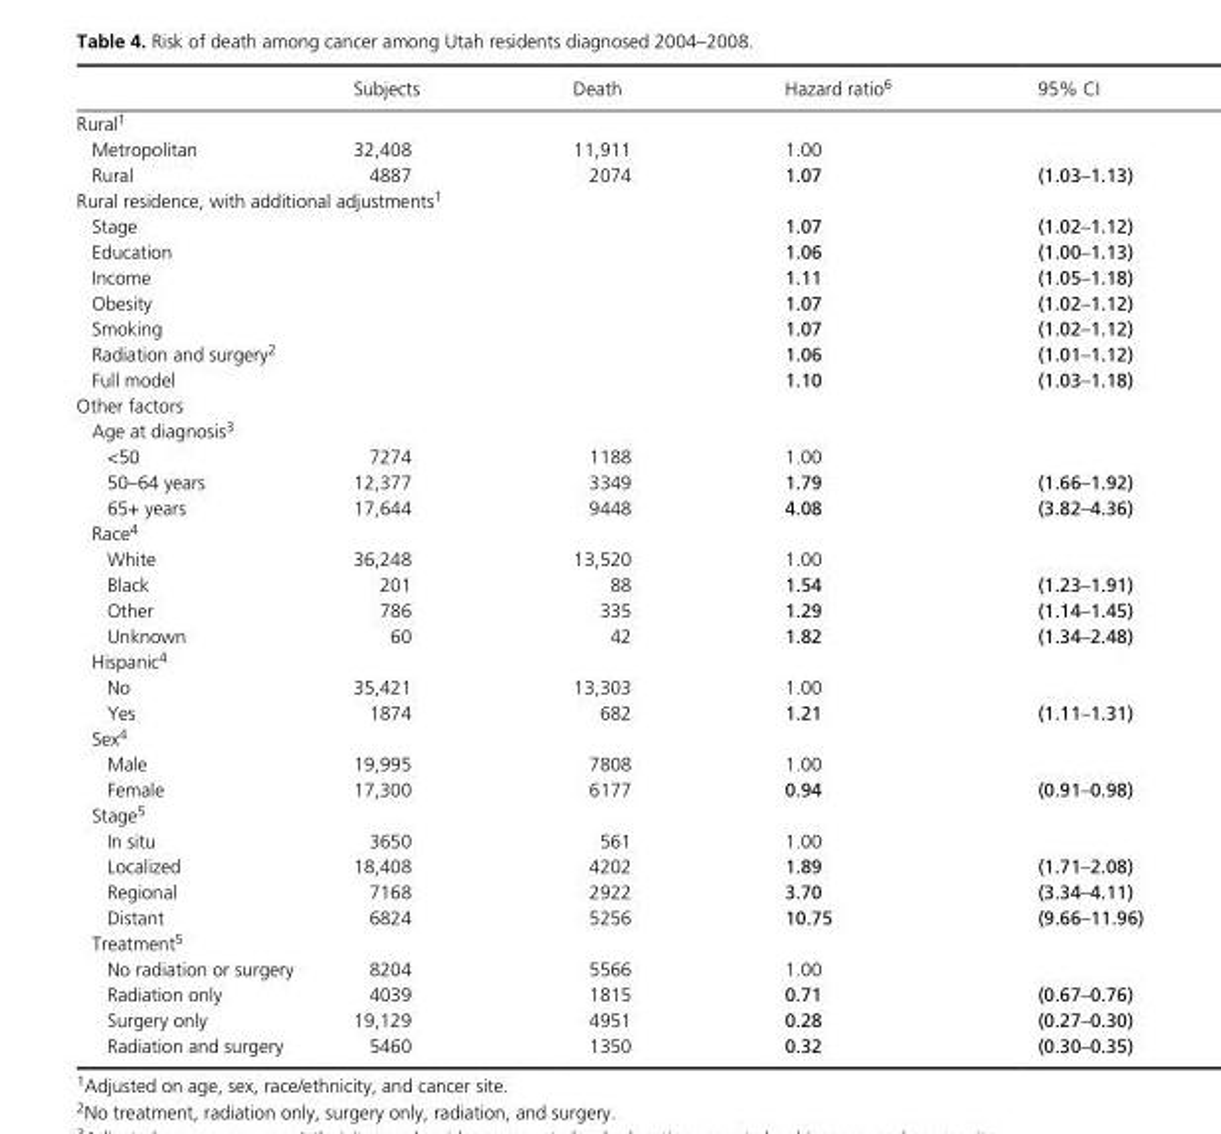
<table><thead><tr><td></td><td>Subjects</td><td>Death</td><td>Hazard ratio6</td><td>95% CI</td></tr></thead><tbody><tr><td colspan="5">Rural1</td></tr><tr><td>Metropolitan</td><td>32,408</td><td>11,911</td><td>1.00</td><td></td></tr><tr><td>Rural</td><td>4887</td><td>2074</td><td>1.07</td><td>(1.03–1.13)</td></tr><tr><td colspan="5">Rural residence, with additional adjustments1</td></tr><tr><td>Stage</td><td></td><td></td><td>1.07</td><td>(1.02–1.12)</td></tr><tr><td>Education</td><td></td><td></td><td>1.06</td><td>(1.00–1.13)</td></tr><tr><td>Income</td><td></td><td></td><td>1.11</td><td>(1.05–1.18)</td></tr><tr><td>Obesity</td><td></td><td></td><td>1.07</td><td>(1.02–1.12)</td></tr><tr><td>Smoking</td><td></td><td></td><td>1.07</td><td>(1.02–1.12)</td></tr><tr><td>Radiation and surgery2</td><td></td><td></td><td>1.06</td><td>(1.01–1.12)</td></tr><tr><td>Full model</td><td></td><td></td><td>1.10</td><td>(1.03–1.18)</td></tr><tr><td colspan="5">Other factors</td></tr><tr><td colspan="5">Age at diagnosis3</td></tr><tr><td>&lt;50</td><td>7274</td><td>1188</td><td>1.00</td><td></td></tr><tr><td>50–64 years</td><td>12,377</td><td>3349</td><td>1.79</td><td>(1.66–1.92)</td></tr><tr><td>65+ years</td><td>17,644</td><td>9448</td><td>4.08</td><td>(3.82–4.36)</td></tr><tr><td colspan="5">Race4</td></tr><tr><td>White</td><td>36,248</td><td>13,520</td><td>1.00</td><td></td></tr><tr><td>Black</td><td>201</td><td>88</td><td>1.54</td><td>(1.23–1.91)</td></tr><tr><td>Other</td><td>786</td><td>335</td><td>1.29</td><td>(1.14–1.45)</td></tr><tr><td>Unknown</td><td>60</td><td>42</td><td>1.82</td><td>(1.34–2.48)</td></tr><tr><td colspan="5">Hispanic4</td></tr><tr><td>No</td><td>35,421</td><td>13,303</td><td>1.00</td><td></td></tr><tr><td>Yes</td><td>1874</td><td>682</td><td>1.21</td><td>(1.11–1.31)</td></tr><tr><td colspan="5">Sex4</td></tr><tr><td>Male</td><td>19,995</td><td>7808</td><td>1.00</td><td></td></tr><tr><td>Female</td><td>17,300</td><td>6177</td><td>0.94</td><td>(0.91–0.98)</td></tr><tr><td colspan="5">Stage5</td></tr><tr><td>In situ</td><td>3650</td><td>561</td><td>1.00</td><td></td></tr><tr><td>Localized</td><td>18,408</td><td>4202</td><td>1.89</td><td>(1.71–2.08)</td></tr><tr><td>Regional</td><td>7168</td><td>2922</td><td>3.70</td><td>(3.34–4.11)</td></tr><tr><td>Distant</td><td>6824</td><td>5256</td><td>10.75</td><td>(9.66–11.96)</td></tr><tr><td colspan="5">Treatment5</td></tr><tr><td>No radiation or surgery</td><td>8204</td><td>5566</td><td>1.00</td><td></td></tr><tr><td>Radiation only</td><td>4039</td><td>1815</td><td>0.71</td><td>(0.67–0.76)</td></tr><tr><td>Surgery only</td><td>19,129</td><td>4951</td><td>0.28</td><td>(0.27–0.30)</td></tr><tr><td>Radiation and surgery</td><td>5460</td><td>1350</td><td>0.32</td><td>(0.30–0.35)</td></tr></tbody></table>